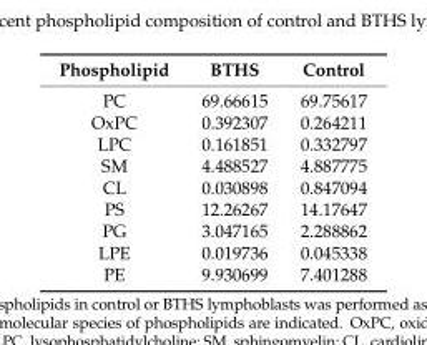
<table><thead><tr><td>Phospholipid</td><td>BTHS</td><td>Control</td></tr></thead><tbody><tr><td>PC</td><td>69.66615</td><td>69.75617</td></tr><tr><td>OxPC</td><td>0.392307</td><td>0.264211</td></tr><tr><td>LPC</td><td>0.161851</td><td>0.332797</td></tr><tr><td>SM</td><td>4.488527</td><td>4.887775</td></tr><tr><td>CL</td><td>0.030898</td><td>0.847094</td></tr><tr><td>PS</td><td>12.26267</td><td>14.17647</td></tr><tr><td>PG</td><td>3.047165</td><td>2.288862</td></tr><tr><td>LPE</td><td>0.019736</td><td>0.045338</td></tr><tr><td>PE</td><td>9.930699</td><td>7.401288</td></tr></tbody></table>